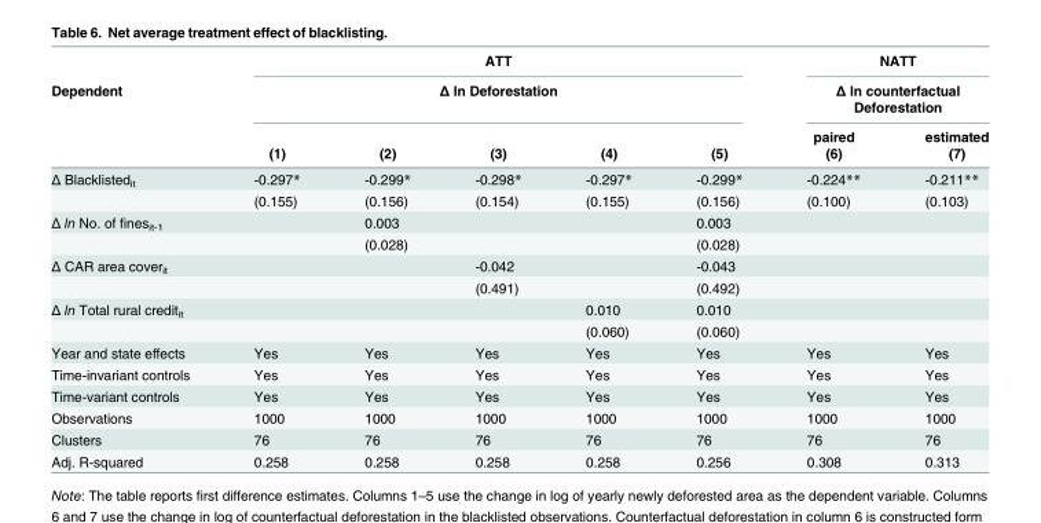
<table><thead><tr><td rowspan="4">Dependent</td><td rowspan="2" colspan="5">ATT Δ ln Deforestation</td><td rowspan="2" colspan="2">NATT Δ ln counterfactual Deforestation</td></tr><tr></tr><tr><td rowspan="2">(1)</td><td rowspan="2">(2)</td><td rowspan="2">(3)</td><td rowspan="2">(4)</td><td rowspan="2">(5)</td><td rowspan="2">paired (6)</td><td rowspan="2">estimated (7)</td></tr><tr></tr></thead><tbody><tr><td rowspan="2">Δ Blacklisted<sub>it</sub></td><td>-0.297*</td><td>-0.299*</td><td>-0.298*</td><td>-0.297*</td><td>-0.299*</td><td>-0.224**</td><td>-0.211**</td></tr><tr><td>(0.155)</td><td>(0.156)</td><td>(0.154)</td><td>(0.155)</td><td>(0.156)</td><td>(0.100)</td><td>(0.103)</td></tr><tr><td rowspan="2">Δ ln No. of fines<sub>it-1</sub></td><td></td><td>0.003</td><td></td><td></td><td>0.003</td><td></td><td></td></tr><tr><td></td><td>(0.028)</td><td></td><td></td><td>(0.028)</td><td></td><td></td></tr><tr><td rowspan="2">Δ CAR area cover<sub>it</sub></td><td></td><td></td><td>-0.042</td><td></td><td>-0.043</td><td></td><td></td></tr><tr><td></td><td></td><td>(0.491)</td><td></td><td>(0.492)</td><td></td><td></td></tr><tr><td rowspan="2">Δ ln Total rural credit<sub>it</sub></td><td></td><td></td><td></td><td>0.010</td><td>0.010</td><td></td><td></td></tr><tr><td></td><td></td><td></td><td>(0.060)</td><td>(0.060)</td><td></td><td></td></tr><tr><td>Year and state effects</td><td>Yes</td><td>Yes</td><td>Yes</td><td>Yes</td><td>Yes</td><td>Yes</td><td>Yes</td></tr><tr><td>Time-invariant controls</td><td>Yes</td><td>Yes</td><td>Yes</td><td>Yes</td><td>Yes</td><td>Yes</td><td>Yes</td></tr><tr><td>Time-variant controls</td><td>Yes</td><td>Yes</td><td>Yes</td><td>Yes</td><td>Yes</td><td>Yes</td><td>Yes</td></tr><tr><td>Observations</td><td>1000</td><td>1000</td><td>1000</td><td>1000</td><td>1000</td><td>1000</td><td>1000</td></tr><tr><td>Clusters</td><td>76</td><td>76</td><td>76</td><td>76</td><td>76</td><td>76</td><td>76</td></tr><tr><td>Adj. R-squared</td><td>0.258</td><td>0.258</td><td>0.258</td><td>0.258</td><td>0.256</td><td>0.308</td><td>0.313</td></tr></tbody></table>